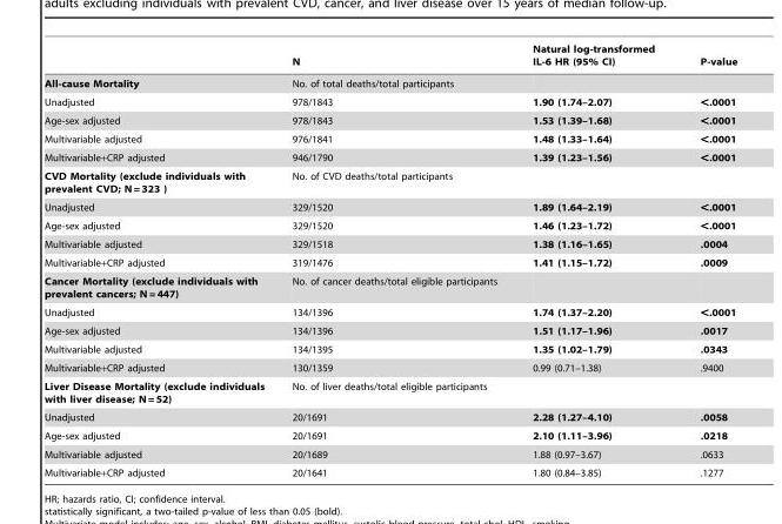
<table><thead><tr><td></td><td>N</td><td>Natural log-transformed IL-6 HR (95% CI)</td><td>P-value</td></tr></thead><tbody><tr><td>All-cause Mortality</td><td>No. of total deaths/total participants</td><td></td><td></td></tr><tr><td>Unadjusted</td><td>978/1843</td><td>1.90 (1.74–2.07)</td><td>&lt;.0001</td></tr><tr><td>Age-sex adjusted</td><td>978/1843</td><td>1.53 (1.39–1.68)</td><td>&lt;.0001</td></tr><tr><td>Multivariable adjusted</td><td>976/1841</td><td>1.48 (1.33–1.64)</td><td>&lt;.0001</td></tr><tr><td>Multivariable+CRP adjusted</td><td>946/1790</td><td>1.39 (1.23–1.56)</td><td>&lt;.0001</td></tr><tr><td>CVD Mortality (exclude individuals with prevalent CVD; N = 323 )</td><td>No. of CVD deaths/total participants</td><td></td><td></td></tr><tr><td>Unadjusted</td><td>329/1520</td><td>1.89 (1.64–2.19)</td><td>&lt;.0001</td></tr><tr><td>Age-sex adjusted</td><td>329/1520</td><td>1.46 (1.23–1.72)</td><td>&lt;.0001</td></tr><tr><td>Multivariable adjusted</td><td>329/1518</td><td>1.38 (1.16–1.65)</td><td>.0004</td></tr><tr><td>Multivariable+CRP adjusted</td><td>319/1476</td><td>1.41 (1.15–1.72)</td><td>.0009</td></tr><tr><td>Cancer Mortality (exclude individuals with prevalent cancers; N = 447)</td><td>No. of cancer deaths/total eligible participants</td><td></td><td></td></tr><tr><td>Unadjusted</td><td>134/1396</td><td>1.74 (1.37–2.20)</td><td>&lt;.0001</td></tr><tr><td>Age-sex adjusted</td><td>134/1396</td><td>1.51 (1.17–1.96)</td><td>.0017</td></tr><tr><td>Multivariable adjusted</td><td>134/1395</td><td>1.35 (1.02–1.79)</td><td>.0343</td></tr><tr><td>Multivariable+CRP adjusted</td><td>130/1359</td><td>0.99 (0.71–1.38)</td><td>.9400</td></tr><tr><td>Liver Disease Mortality (exclude individuals with liver disease; N = 52)</td><td>No. of liver deaths/total eligible participants</td><td></td><td></td></tr><tr><td>Unadjusted</td><td>20/1691</td><td>2.28 (1.27–4.10)</td><td>.0058</td></tr><tr><td>Age-sex adjusted</td><td>20/1691</td><td>2.10 (1.11–3.96)</td><td>.0218</td></tr><tr><td>Multivariable adjusted</td><td>20/1689</td><td>1.88 (0.97–3.67)</td><td>.0633</td></tr><tr><td>Multivariable+CRP adjusted</td><td>20/1641</td><td>1.80 (0.84–3.85)</td><td>.1277</td></tr></tbody></table>